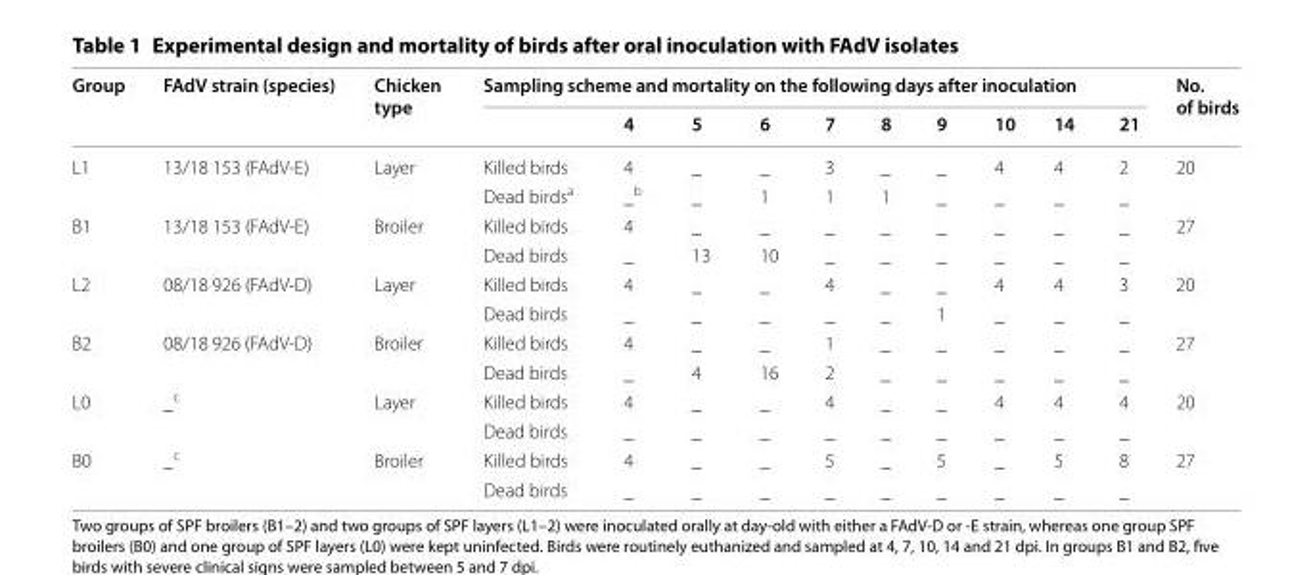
<table><thead><tr><td rowspan="2">Group</td><td rowspan="2">FAdV strain (species)</td><td rowspan="2">Chicken type</td><td colspan="10">Sampling scheme and mortality on the following days after inoculation</td><td rowspan="2">No. of birds</td></tr><tr><td></td><td>4</td><td>5</td><td>6</td><td>7</td><td>8</td><td>9</td><td>10</td><td>14</td><td>21</td></tr></thead><tbody><tr><td rowspan="2">L1</td><td rowspan="2">13/18 153 (FAdV-E)</td><td rowspan="2">Layer</td><td>Killed birds</td><td>4</td><td>_</td><td>_</td><td>3</td><td>_</td><td>_</td><td>4</td><td>4</td><td>2</td><td rowspan="2">20</td></tr><tr><td>Dead birds<sup>a</sup></td><td>_<sup>b</sup></td><td>_</td><td>1</td><td>1</td><td>1</td><td>_</td><td>_</td><td>_</td><td>_</td></tr><tr><td rowspan="2">B1</td><td rowspan="2">13/18 153 (FAdV-E)</td><td rowspan="2">Broiler</td><td>Killed birds</td><td>4</td><td>_</td><td>_</td><td>_</td><td>_</td><td>_</td><td>_</td><td>_</td><td>_</td><td rowspan="2">27</td></tr><tr><td>Dead birds</td><td>_</td><td>13</td><td>10</td><td>_</td><td>_</td><td>_</td><td>_</td><td>_</td><td>_</td></tr><tr><td rowspan="2">L2</td><td rowspan="2">08/18 926 (FAdV-D)</td><td rowspan="2">Layer</td><td>Killed birds</td><td>4</td><td>_</td><td>_</td><td>4</td><td>_</td><td>_</td><td>4</td><td>4</td><td>3</td><td rowspan="2">20</td></tr><tr><td>Dead birds</td><td>_</td><td>_</td><td>_</td><td>_</td><td>_</td><td>1</td><td>_</td><td>_</td><td>_</td></tr><tr><td rowspan="2">B2</td><td rowspan="2">08/18 926 (FAdV-D)</td><td rowspan="2">Broiler</td><td>Killed birds</td><td>4</td><td>_</td><td>_</td><td>1</td><td>_</td><td>_</td><td>_</td><td>_</td><td>_</td><td rowspan="2">27</td></tr><tr><td>Dead birds</td><td>_</td><td>4</td><td>16</td><td>2</td><td>_</td><td>_</td><td>_</td><td>_</td><td>_</td></tr><tr><td rowspan="2">L0</td><td rowspan="2">_<sup>c</sup></td><td rowspan="2">Layer</td><td>Killed birds</td><td>4</td><td>_</td><td>_</td><td>4</td><td>_</td><td>_</td><td>4</td><td>4</td><td>4</td><td rowspan="2">20</td></tr><tr><td>Dead birds</td><td>_</td><td>_</td><td>_</td><td>_</td><td>_</td><td>_</td><td>_</td><td>_</td><td>_</td></tr><tr><td rowspan="2">B0</td><td rowspan="2">_<sup>c</sup></td><td rowspan="2">Broiler</td><td>Killed birds</td><td>4</td><td>_</td><td>_</td><td>5</td><td>_</td><td>5</td><td>_</td><td>5</td><td>8</td><td rowspan="2">27</td></tr><tr><td>Dead birds</td><td>_</td><td>_</td><td>_</td><td>_</td><td>_</td><td>_</td><td>_</td><td>_</td><td>_</td></tr></tbody></table>